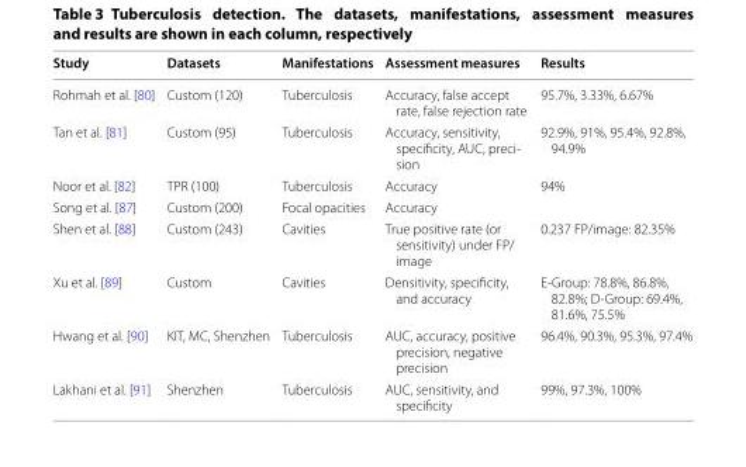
<table><thead><tr><td>Study</td><td>Datasets</td><td>Manifestations</td><td>Assessment measures</td><td>Results</td></tr></thead><tbody><tr><td>Rohmah et al. [80]</td><td>Custom (120)</td><td>Tuberculosis</td><td>Accuracy, false accept rate, false rejection rate</td><td>95.7%, 3.33%, 6.67%</td></tr><tr><td>Tan et al. [81]</td><td>Custom (95)</td><td>Tuberculosis</td><td>Accuracy, sensitivity, specificity, AUC, preci- sion</td><td>92.9%, 91%, 95.4%, 92.8%, 94.9%</td></tr><tr><td>Noor et al. [82]</td><td>TPR (100)</td><td>Tuberculosis</td><td>Accuracy</td><td>94%</td></tr><tr><td>Song et al. [87]</td><td>Custom (200)</td><td>Focal opacities</td><td>Accuracy</td><td></td></tr><tr><td>Shen et al. [88]</td><td>Custom (243)</td><td>Cavities</td><td>True positive rate (or sensitivity) under FP/ image</td><td>0.237 FP/image: 82.35%</td></tr><tr><td>Xu et al. [89]</td><td>Custom</td><td>Cavities</td><td>Densitivity, specificity, and accuracy</td><td>E-Group: 78.8%, 86.8%, 82.8%; D-Group: 69.4%, 81.6%, 75.5%</td></tr><tr><td>Hwang et al. [90]</td><td>KIT, MC, Shenzhen</td><td>Tuberculosis</td><td>AUC, accuracy, positive precision, negative precision</td><td>96.4%, 90.3%, 95.3%, 97.4%</td></tr><tr><td>Lakhani et al. [91]</td><td>Shenzhen</td><td>Tuberculosis</td><td>AUC, sensitivity, and specificity</td><td>99%, 97.3%, 100%</td></tr></tbody></table>